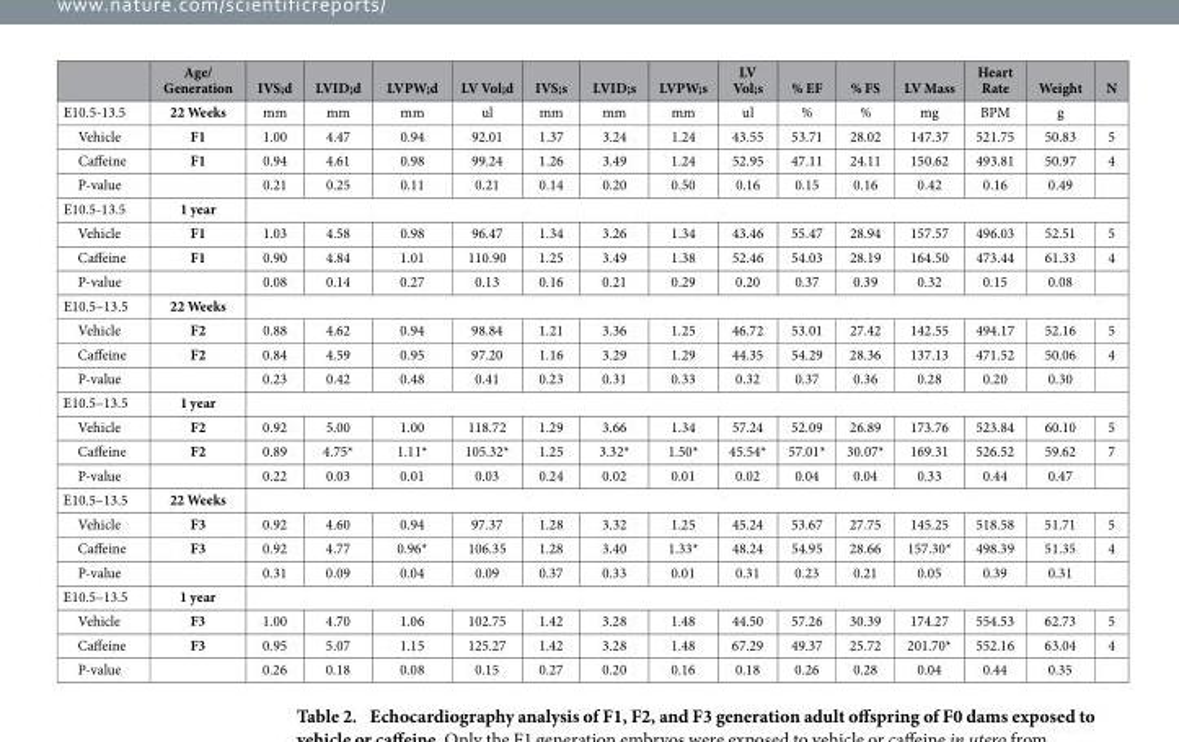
<table><thead><tr><td></td><td>Age/ Generation</td><td>IVS;d</td><td>LVID;d</td><td>LVPW;d</td><td>LV Vol;d</td><td>IVS;s</td><td>LVID;s</td><td>LVPW;s</td><td>LV Vol;s</td><td>% EF</td><td>% FS</td><td>LV Mass</td><td>Heart Rate</td><td>Weight</td><td>N</td></tr></thead><tbody><tr><td>E10.5-13.5</td><td>22 Weeks</td><td>mm</td><td>mm</td><td>mm</td><td>ul</td><td>mm</td><td>mm</td><td>mm</td><td>ul</td><td>%</td><td>%</td><td>mg</td><td>BPM</td><td>g</td><td></td></tr><tr><td>Vehicle</td><td>F1</td><td>1.00</td><td>4.47</td><td>0.94</td><td>92.01</td><td>1.37</td><td>3.24</td><td>1.24</td><td>43.55</td><td>53.71</td><td>28.02</td><td>147.37</td><td>521.75</td><td>50.83</td><td>5</td></tr><tr><td>Caffeine</td><td>F1</td><td>0.94</td><td>4.61</td><td>0.98</td><td>99.24</td><td>1.26</td><td>3.49</td><td>1.24</td><td>52.95</td><td>47.11</td><td>24.11</td><td>150.62</td><td>493.81</td><td>50.97</td><td>4</td></tr><tr><td>P-value</td><td></td><td>0.21</td><td>0.25</td><td>0.11</td><td>0.21</td><td>0.14</td><td>0.20</td><td>0.50</td><td>0.16</td><td>0.15</td><td>0.16</td><td>0.42</td><td>0.16</td><td>0.49</td><td></td></tr><tr><td>E10.5-13.5</td><td>1 year</td><td colspan="14"></td></tr><tr><td>Vehicle</td><td>F1</td><td>1.03</td><td>4.58</td><td>0.98</td><td>96.47</td><td>1.34</td><td>3.26</td><td>1.34</td><td>43.46</td><td>55.47</td><td>28.94</td><td>157.57</td><td>496.03</td><td>52.51</td><td>5</td></tr><tr><td>Caffeine</td><td>F1</td><td>0.90</td><td>4.84</td><td>1.01</td><td>110.90</td><td>1.25</td><td>3.49</td><td>1.38</td><td>52.46</td><td>54.03</td><td>28.19</td><td>164.50</td><td>473.44</td><td>61.33</td><td>4</td></tr><tr><td>P-value</td><td></td><td>0.08</td><td>0.14</td><td>0.27</td><td>0.13</td><td>0.16</td><td>0.21</td><td>0.29</td><td>0.20</td><td>0.37</td><td>0.39</td><td>0.32</td><td>0.15</td><td>0.08</td><td></td></tr><tr><td>E10.5–13.5</td><td>22 Weeks</td><td colspan="14"></td></tr><tr><td>Vehicle</td><td>F2</td><td>0.88</td><td>4.62</td><td>0.94</td><td>98.84</td><td>1.21</td><td>3.36</td><td>1.25</td><td>46.72</td><td>53.01</td><td>27.42</td><td>142.55</td><td>494.17</td><td>52.16</td><td>5</td></tr><tr><td>Caffeine</td><td>F2</td><td>0.84</td><td>4.59</td><td>0.95</td><td>97.20</td><td>1.16</td><td>3.29</td><td>1.29</td><td>44.35</td><td>54.29</td><td>28.36</td><td>137.13</td><td>471.52</td><td>50.06</td><td>4</td></tr><tr><td>P-value</td><td></td><td>0.23</td><td>0.42</td><td>0.48</td><td>0.41</td><td>0.23</td><td>0.31</td><td>0.33</td><td>0.32</td><td>0.37</td><td>0.36</td><td>0.28</td><td>0.20</td><td>0.30</td><td></td></tr><tr><td>E10.5–13.5</td><td>1 year</td><td colspan="14"></td></tr><tr><td>Vehicle</td><td>F2</td><td>0.92</td><td>5.00</td><td>1.00</td><td>118.72</td><td>1.29</td><td>3.66</td><td>1.34</td><td>57.24</td><td>52.09</td><td>26.89</td><td>173.76</td><td>523.84</td><td>60.10</td><td>5</td></tr><tr><td>Caffeine</td><td>F2</td><td>0.89</td><td>4.75*</td><td>1.11*</td><td>105.32*</td><td>1.25</td><td>3.32*</td><td>1.50*</td><td>45.54*</td><td>57.01*</td><td>30.07*</td><td>169.31</td><td>526.52</td><td>59.62</td><td>7</td></tr><tr><td>P-value</td><td></td><td>0.22</td><td>0.03</td><td>0.01</td><td>0.03</td><td>0.24</td><td>0.02</td><td>0.01</td><td>0.02</td><td>0.04</td><td>0.04</td><td>0.33</td><td>0.44</td><td>0.47</td><td></td></tr><tr><td>E10.5–13.5</td><td>22 Weeks</td><td colspan="14"></td></tr><tr><td>Vehicle</td><td>F3</td><td>0.92</td><td>4.60</td><td>0.94</td><td>97.37</td><td>1.28</td><td>3.32</td><td>1.25</td><td>45.24</td><td>53.67</td><td>27.75</td><td>145.25</td><td>518.58</td><td>51.71</td><td>5</td></tr><tr><td>Caffeine</td><td>F3</td><td>0.92</td><td>4.77</td><td>0.96*</td><td>106.35</td><td>1.28</td><td>3.40</td><td>1.33*</td><td>48.24</td><td>54.95</td><td>28.66</td><td>157.30*</td><td>498.39</td><td>51.35</td><td>4</td></tr><tr><td>P-value</td><td></td><td>0.31</td><td>0.09</td><td>0.04</td><td>0.09</td><td>0.37</td><td>0.33</td><td>0.01</td><td>0.31</td><td>0.23</td><td>0.21</td><td>0.05</td><td>0.39</td><td>0.31</td><td></td></tr><tr><td>E10.5–13.5</td><td>1 year</td><td colspan="14"></td></tr><tr><td>Vehicle</td><td>F3</td><td>1.00</td><td>4.70</td><td>1.06</td><td>102.75</td><td>1.42</td><td>3.28</td><td>1.48</td><td>44.50</td><td>57.26</td><td>30.39</td><td>174.27</td><td>554.53</td><td>62.73</td><td>5</td></tr><tr><td>Caffeine</td><td>F3</td><td>0.95</td><td>5.07</td><td>1.15</td><td>125.27</td><td>1.42</td><td>3.28</td><td>1.48</td><td>67.29</td><td>49.37</td><td>25.72</td><td>201.70*</td><td>552.16</td><td>63.04</td><td>4</td></tr><tr><td>P-value</td><td></td><td>0.26</td><td>0.18</td><td>0.08</td><td>0.15</td><td>0.27</td><td>0.20</td><td>0.16</td><td>0.18</td><td>0.26</td><td>0.28</td><td>0.04</td><td>0.44</td><td>0.35</td><td></td></tr></tbody></table>